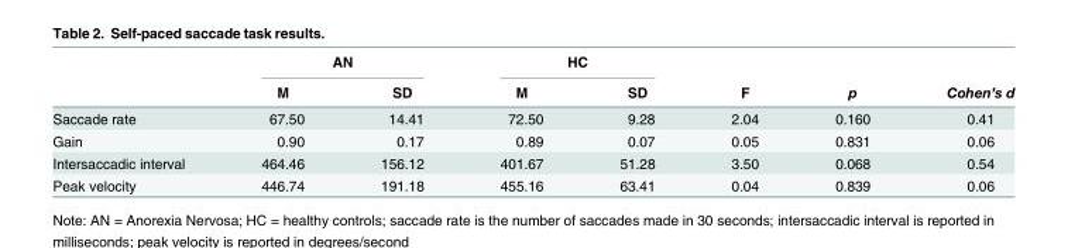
<table><thead><tr><td rowspan="2"></td><td colspan="2">AN</td><td colspan="2">HC</td><td rowspan="2">F</td><td rowspan="2">p</td><td rowspan="2">Cohen’s d</td></tr><tr><td>M</td><td>SD</td><td>M</td><td>SD</td></tr></thead><tbody><tr><td>Saccade rate</td><td>67.50</td><td>14.41</td><td>72.50</td><td>9.28</td><td>2.04</td><td>0.160</td><td>0.41</td></tr><tr><td>Gain</td><td>0.90</td><td>0.17</td><td>0.89</td><td>0.07</td><td>0.05</td><td>0.831</td><td>0.06</td></tr><tr><td>Intersaccadic interval</td><td>464.46</td><td>156.12</td><td>401.67</td><td>51.28</td><td>3.50</td><td>0.068</td><td>0.54</td></tr><tr><td>Peak velocity</td><td>446.74</td><td>191.18</td><td>455.16</td><td>63.41</td><td>0.04</td><td>0.839</td><td>0.06</td></tr></tbody></table>